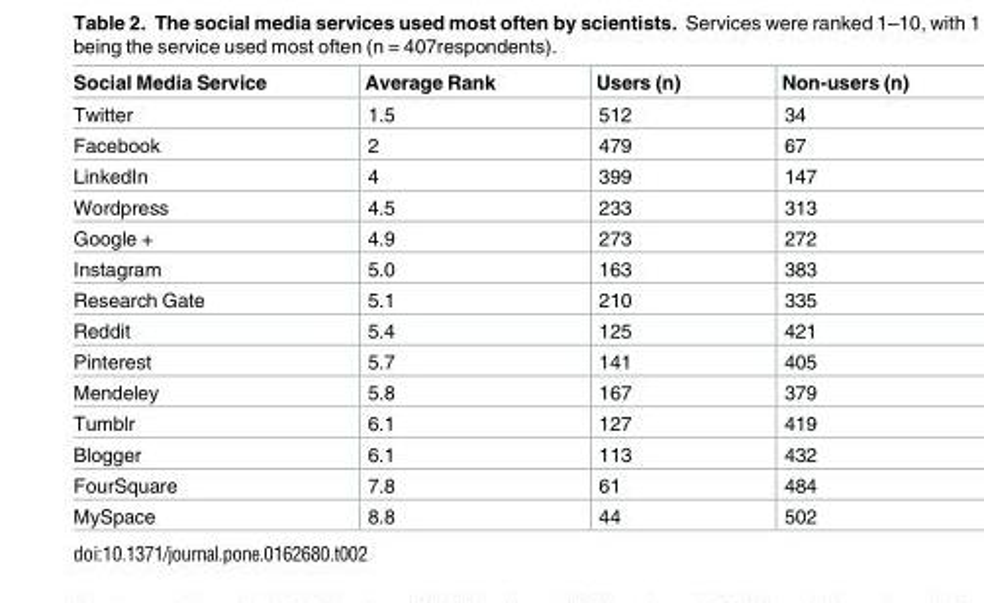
<table><thead><tr><td>Social Media Service</td><td>Average Rank</td><td>Users (n)</td><td>Non-users (n)</td></tr></thead><tbody><tr><td>Twitter</td><td>1.5</td><td>512</td><td>34</td></tr><tr><td>Facebook</td><td>2</td><td>479</td><td>67</td></tr><tr><td>LinkedIn</td><td>4</td><td>399</td><td>147</td></tr><tr><td>Wordpress</td><td>4.5</td><td>233</td><td>313</td></tr><tr><td>Google +</td><td>4.9</td><td>273</td><td>272</td></tr><tr><td>Instagram</td><td>5.0</td><td>163</td><td>383</td></tr><tr><td>Research Gate</td><td>5.1</td><td>210</td><td>335</td></tr><tr><td>Reddit</td><td>5.4</td><td>125</td><td>421</td></tr><tr><td>Pinterest</td><td>5.7</td><td>141</td><td>405</td></tr><tr><td>Mendeley</td><td>5.8</td><td>167</td><td>379</td></tr><tr><td>Tumblr</td><td>6.1</td><td>127</td><td>419</td></tr><tr><td>Blogger</td><td>6.1</td><td>113</td><td>432</td></tr><tr><td>FourSquare</td><td>7.8</td><td>61</td><td>484</td></tr><tr><td>MySpace</td><td>8.8</td><td>44</td><td>502</td></tr></tbody></table>